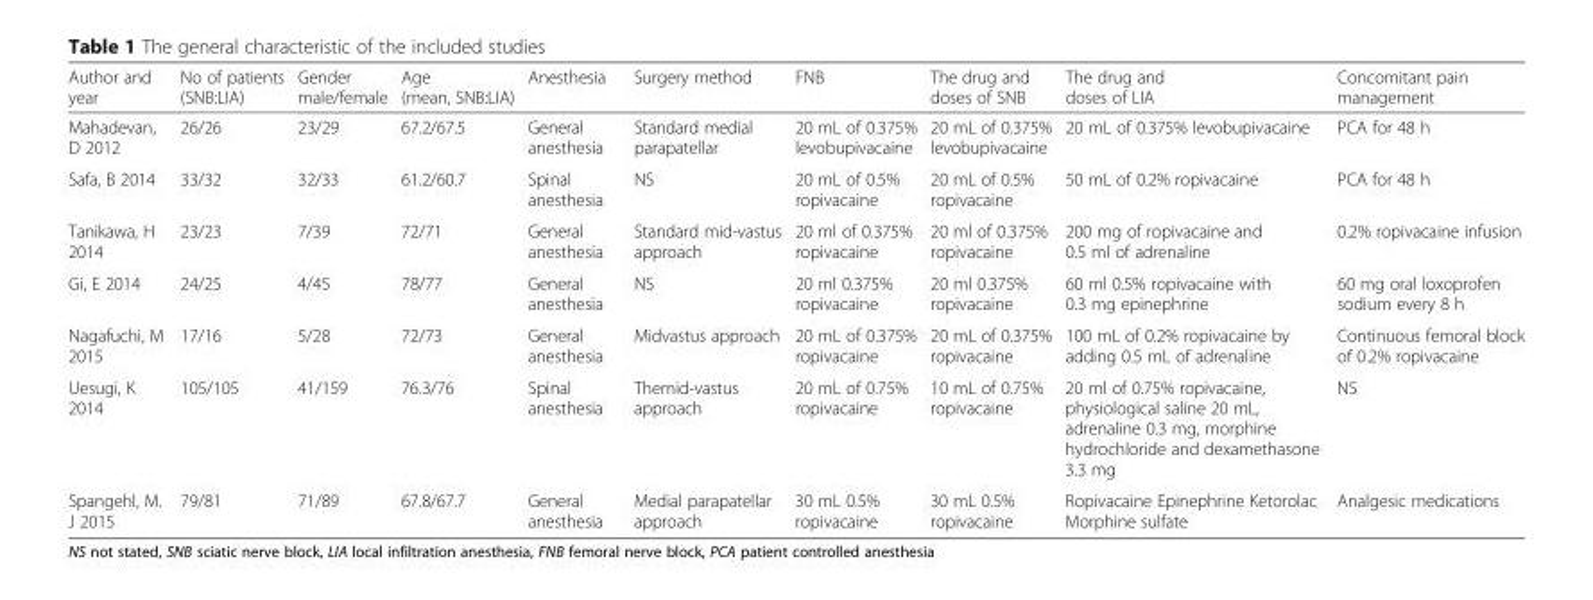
<table><thead><tr><td>Author and year</td><td>No of patients (SNB:LIA)</td><td>Gender male/female</td><td>Age (mean, SNB:LIA)</td><td>Anesthesia</td><td>Surgery method</td><td>FNB</td><td>The drug and doses of SNB</td><td>The drug and doses of LIA</td><td>Concomitant pain management</td></tr></thead><tbody><tr><td>Mahadevan, D 2012</td><td>26/26</td><td>23/29</td><td>67.2/67.5</td><td>General anesthesia</td><td>Standard medial parapatellar</td><td>20 mL of 0.375% levobupivacaine</td><td>20 mL of 0.375% levobupivacaine</td><td>20 mL of 0.375% levobupivacaine</td><td>PCA for 48 h</td></tr><tr><td>Safa, B 2014</td><td>33/32</td><td>32/33</td><td>61.2/60.7</td><td>Spinal anesthesia</td><td>NS</td><td>20 mL of 0.5% ropivacaine</td><td>20 mL of 0.5% ropivacaine</td><td>50 mL of 0.2% ropivacaine</td><td>PCA for 48 h</td></tr><tr><td>Tanikawa, H 2014</td><td>23/23</td><td>7/39</td><td>72/71</td><td>General anesthesia</td><td>Standard mid-vastus approach</td><td>20 ml of 0.375% ropivacaine</td><td>20 ml of 0.375% ropivacaine</td><td>200 mg of ropivacaine and 0.5 ml of adrenaline</td><td>0.2% ropivacaine infusion</td></tr><tr><td>Gi, E 2014</td><td>24/25</td><td>4/45</td><td>78/77</td><td>General anesthesia</td><td>NS</td><td>20 ml 0.375% ropivacaine</td><td>20 ml 0.375% ropivacaine</td><td>60 ml 0.5% ropivacaine with 0.3 mg epinephrine</td><td>60 mg oral loxoprofen sodium every 8 h</td></tr><tr><td>Nagafuchi, M 2015</td><td>17/16</td><td>5/28</td><td>72/73</td><td>General anesthesia</td><td>Midvastus approach</td><td>20 mL of 0.375% ropivacaine</td><td>20 mL of 0.375% ropivacaine</td><td>100 mL of 0.2% ropivacaine by adding 0.5 mL of adrenaline</td><td>Continuous femoral block of 0.2% ropivacaine</td></tr><tr><td>Uesugi, K 2014</td><td>105/105</td><td>41/159</td><td>76.3/76</td><td>Spinal anesthesia</td><td>Themid-vastus approach</td><td>20 mL of 0.75% ropivacaine</td><td>10 mL of 0.75% ropivacaine</td><td>20 ml of 0.75% ropivacaine, physiological saline 20 mL, adrenaline 0.3 mg, morphine hydrochloride and dexamethasone 3.3 mg</td><td>NS</td></tr><tr><td>Spangehl, M. J 2015</td><td>79/81</td><td>71/89</td><td>67.8/67.7</td><td>General anesthesia</td><td>Medial parapatellar approach</td><td>30 mL 0.5% ropivacaine</td><td>30 mL 0.5% ropivacaine</td><td>Ropivacaine Epinephrine Ketorolac Morphine sulfate</td><td>Analgesic medications</td></tr></tbody></table>